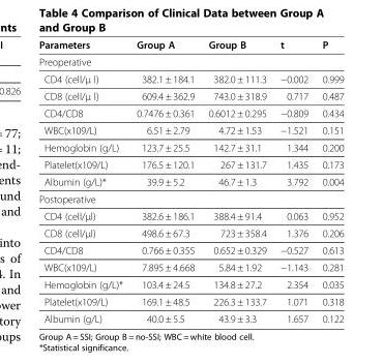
<table><thead><tr><td>Parameters</td><td>Group A</td><td>Group B</td><td>t</td><td>P</td></tr></thead><tbody><tr><td colspan="5">Preoperative</td></tr><tr><td>CD4 (cell/μ l)</td><td>382.1 ± 184.1</td><td>382.0 ± 111.3</td><td>−0.002</td><td>0.999</td></tr><tr><td>CD8 (cell/μ l)</td><td>609.4 ± 362.9</td><td>743.0 ± 318.9</td><td>0.717</td><td>0.487</td></tr><tr><td>CD4/CD8</td><td>0.7476 ± 0.361</td><td>0.6012 ± 0.295</td><td>−0.809</td><td>0.434</td></tr><tr><td>WBC(x109/L)</td><td>6.51 ± 2.79</td><td>4.72 ± 1.53</td><td>−1.521</td><td>0.151</td></tr><tr><td>Hemoglobin (g/L)</td><td>123.7 ± 25.5</td><td>142.7 ± 31.1</td><td>1.344</td><td>0.200</td></tr><tr><td>Platelet(x109/L)</td><td>176.5 ± 120.1</td><td>267 ± 131.7</td><td>1.435</td><td>0.173</td></tr><tr><td>Albumin (g/L)*</td><td>39.9 ± 5.2</td><td>46.7 ± 1.3</td><td>3.792</td><td>0.004</td></tr><tr><td colspan="5">Postoperative</td></tr><tr><td>CD4 (cell/μl)</td><td>382.6 ± 186.1</td><td>388.4 ± 91.4</td><td>0.063</td><td>0.952</td></tr><tr><td>CD8 (cell/μl)</td><td>498.6 ± 67.3</td><td>723 ± 358.4</td><td>1.376</td><td>0.206</td></tr><tr><td>CD4/CD8</td><td>0.766 ± 0.355</td><td>0.652 ± 0.329</td><td>−0.527</td><td>0.613</td></tr><tr><td>WBC(x109/L)</td><td>7.895 ± 4.668</td><td>5.84 ± 1.92</td><td>−1.143</td><td>0.281</td></tr><tr><td>Hemoglobin (g/L)*</td><td>103.4 ± 24.5</td><td>134.8 ± 27.2</td><td>2.354</td><td>0.035</td></tr><tr><td>Platelet(x109/L)</td><td>169.1 ± 48.5</td><td>226.3 ± 133.7</td><td>1.071</td><td>0.318</td></tr><tr><td>Albumin (g/L)</td><td>40.0 ± 5.5</td><td>43.9 ± 3.3</td><td>1.657</td><td>0.122</td></tr></tbody></table>